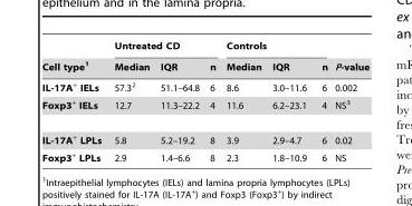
<table><thead><tr><td rowspan="2">Cell type<sup>1</sup></td><td colspan="3">Untreated CD</td><td colspan="3">Controls</td><td rowspan="2">P-value</td></tr><tr><td>Median</td><td>IQR</td><td>n</td><td>Median</td><td>IQR</td><td>n</td></tr></thead><tbody><tr><td>IL-17A<sup>+</sup> IELs</td><td>57.3<sup>2</sup></td><td>51.1–64.8</td><td>6</td><td>8.6</td><td>3.0–11.6</td><td>6</td><td>0.002</td></tr><tr><td>Foxp3<sup>+</sup> IELs</td><td>12.7</td><td>11.3–22.2</td><td>4</td><td>11.6</td><td>6.2–23.1</td><td>4</td><td>NS<sup>3</sup></td></tr><tr><td>IL-17A<sup>+</sup> LPLs</td><td>5.8</td><td>5.2–19.2</td><td>8</td><td>3.9</td><td>2.9–4.7</td><td>6</td><td>0.02</td></tr><tr><td>Foxp3<sup>+</sup> LPLs</td><td>2.9</td><td>1.4–6.6</td><td>8</td><td>2.3</td><td>1.8–10.9</td><td>6</td><td>NS</td></tr></tbody></table>